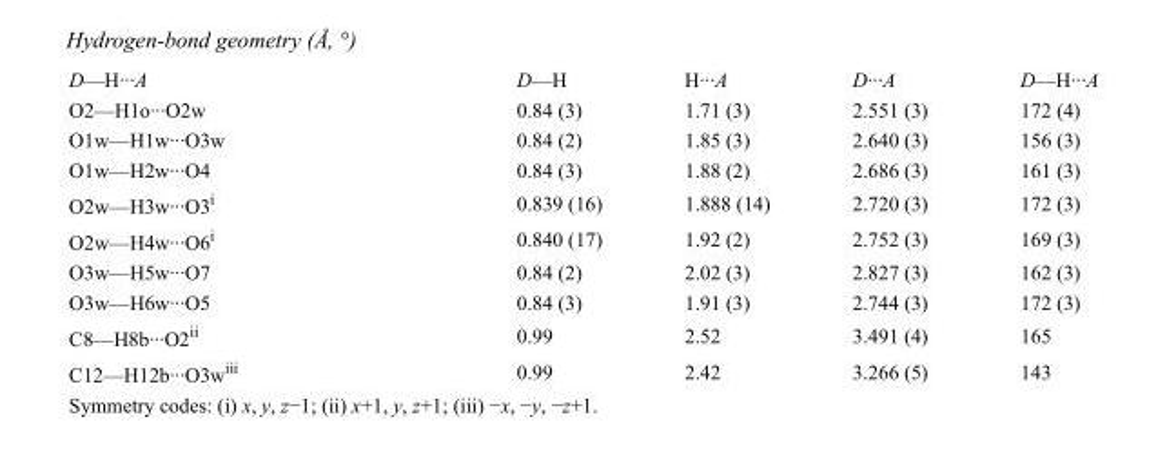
<table><tbody><tr><td>D—H···A</td><td>D—H</td><td>H···A</td><td>D···A</td><td>D—H···A</td></tr><tr><td>O2—H1o···O2w</td><td>0.84 (3)</td><td>1.71 (3)</td><td>2.551 (3)</td><td>172 (4)</td></tr><tr><td>O1w—H1w···O3w</td><td>0.84 (2)</td><td>1.85 (3)</td><td>2.640 (3)</td><td>156 (3)</td></tr><tr><td>O1w—H2w···O4</td><td>0.84 (3)</td><td>1.88 (2)</td><td>2.686 (3)</td><td>161 (3)</td></tr><tr><td>O2w—H3w···O3<sup>i</sup></td><td>0.839 (16)</td><td>1.888 (14)</td><td>2.720 (3)</td><td>172 (3)</td></tr><tr><td>O2w—H4w···O6<sup>i</sup></td><td>0.840 (17)</td><td>1.92 (2)</td><td>2.752 (3)</td><td>169 (3)</td></tr><tr><td>O3w—H5w···O7</td><td>0.84 (2)</td><td>2.02 (3)</td><td>2.827 (3)</td><td>162 (3)</td></tr><tr><td>O3w—H6w···O5</td><td>0.84 (3)</td><td>1.91 (3)</td><td>2.744 (3)</td><td>172 (3)</td></tr><tr><td>C8—H8b···O2<sup>ii</sup></td><td>0.99</td><td>2.52</td><td>3.491 (4)</td><td>165</td></tr><tr><td>C12—H12b···O3w<sup>iii</sup></td><td>0.99</td><td>2.42</td><td>3.266 (5)</td><td>143</td></tr></tbody></table>